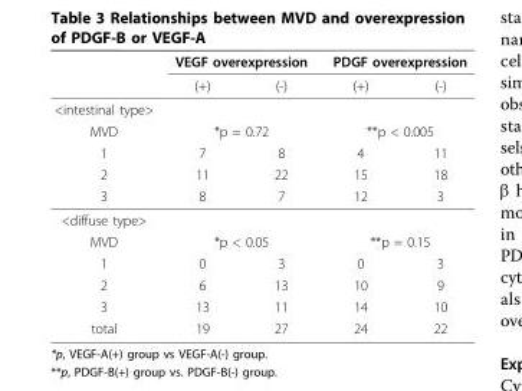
<table><thead><tr><td rowspan="2"></td><td colspan="2">VEGF overexpression</td><td colspan="2">PDGF overexpression</td></tr><tr><td>(+)</td><td>(-)</td><td>(+)</td><td>(-)</td></tr></thead><tbody><tr><td colspan="5">&lt;intestinal type&gt;</td></tr><tr><td>MVD</td><td colspan="2">*p = 0.72</td><td colspan="2">**p &lt; 0.005</td></tr><tr><td>1</td><td>7</td><td>8</td><td>4</td><td>11</td></tr><tr><td>2</td><td>11</td><td>22</td><td>15</td><td>18</td></tr><tr><td>3</td><td>8</td><td>7</td><td>12</td><td>3</td></tr><tr><td colspan="5">&lt;diffuse type&gt;</td></tr><tr><td>MVD</td><td colspan="2">*p &lt; 0.05</td><td colspan="2">**p = 0.15</td></tr><tr><td>1</td><td>0</td><td>3</td><td>0</td><td>3</td></tr><tr><td>2</td><td>6</td><td>13</td><td>10</td><td>9</td></tr><tr><td>3</td><td>13</td><td>11</td><td>14</td><td>10</td></tr><tr><td>total</td><td>19</td><td>27</td><td>24</td><td>22</td></tr></tbody></table>